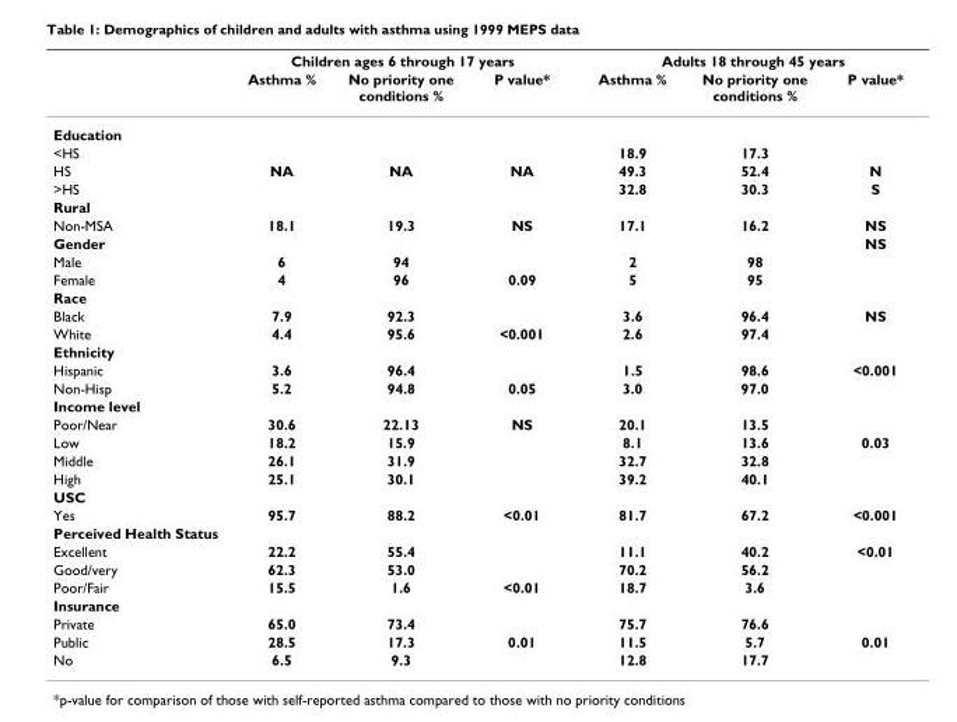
<table><thead><tr><td rowspan="2"></td><td colspan="3">Children ages 6 through 17 years</td><td colspan="3">Adults 18 through 45 years</td></tr><tr><td>Asthma %</td><td>No priority one conditions %</td><td>P value*</td><td>Asthma %</td><td>No priority one conditions %</td><td>P value*</td></tr></thead><tbody><tr><td colspan="7">Education</td></tr><tr><td>&lt;HS</td><td></td><td></td><td></td><td>18.9</td><td>17.3</td><td></td></tr><tr><td>HS</td><td>NA</td><td>NA</td><td>NA</td><td>49.3</td><td>52.4</td><td>N</td></tr><tr><td>&gt;HS</td><td></td><td></td><td></td><td>32.8</td><td>30.3</td><td>S</td></tr><tr><td colspan="7">Rural</td></tr><tr><td>Non-MSA</td><td>18.1</td><td>19.3</td><td>NS</td><td>17.1</td><td>16.2</td><td>NS</td></tr><tr><td>Gender</td><td></td><td></td><td></td><td></td><td></td><td>NS</td></tr><tr><td>Male</td><td>6</td><td>94</td><td></td><td>2</td><td>98</td><td></td></tr><tr><td>Female</td><td>4</td><td>96</td><td>0.09</td><td>5</td><td>95</td><td></td></tr><tr><td colspan="7">Race</td></tr><tr><td>Black</td><td>7.9</td><td>92.3</td><td></td><td>3.6</td><td>96.4</td><td>NS</td></tr><tr><td>White</td><td>4.4</td><td>95.6</td><td>&lt;0.001</td><td>2.6</td><td>97.4</td><td></td></tr><tr><td colspan="7">Ethnicity</td></tr><tr><td>Hispanic</td><td>3.6</td><td>96.4</td><td></td><td>1.5</td><td>98.6</td><td>&lt;0.001</td></tr><tr><td>Non-Hisp</td><td>5.2</td><td>94.8</td><td>0.05</td><td>3.0</td><td>97.0</td><td></td></tr><tr><td colspan="7">Income level</td></tr><tr><td>Poor/Near</td><td>30.6</td><td>22.13</td><td>NS</td><td>20.1</td><td>13.5</td><td></td></tr><tr><td>Low</td><td>18.2</td><td>15.9</td><td></td><td>8.1</td><td>13.6</td><td>0.03</td></tr><tr><td>Middle</td><td>26.1</td><td>31.9</td><td></td><td>32.7</td><td>32.8</td><td></td></tr><tr><td>High</td><td>25.1</td><td>30.1</td><td></td><td>39.2</td><td>40.1</td><td></td></tr><tr><td colspan="7">USC</td></tr><tr><td>Yes</td><td>95.7</td><td>88.2</td><td>&lt;0.01</td><td>81.7</td><td>67.2</td><td>&lt;0.001</td></tr><tr><td colspan="7">Perceived Health Status</td></tr><tr><td>Excellent</td><td>22.2</td><td>55.4</td><td></td><td>11.1</td><td>40.2</td><td>&lt;0.01</td></tr><tr><td>Good/very</td><td>62.3</td><td>53.0</td><td></td><td>70.2</td><td>56.2</td><td></td></tr><tr><td>Poor/Fair</td><td>15.5</td><td>1.6</td><td>&lt;0.01</td><td>18.7</td><td>3.6</td><td></td></tr><tr><td colspan="7">Insurance</td></tr><tr><td>Private</td><td>65.0</td><td>73.4</td><td></td><td>75.7</td><td>76.6</td><td></td></tr><tr><td>Public</td><td>28.5</td><td>17.3</td><td>0.01</td><td>11.5</td><td>5.7</td><td>0.01</td></tr><tr><td>No</td><td>6.5</td><td>9.3</td><td></td><td>12.8</td><td>17.7</td><td></td></tr></tbody></table>